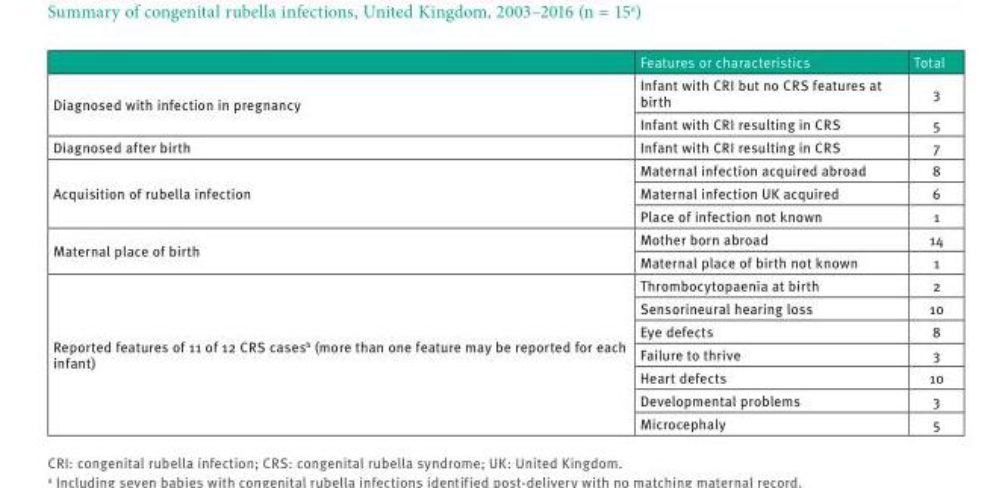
<table><thead><tr><td></td><td>Features or characteristics</td><td>Total</td></tr></thead><tbody><tr><td rowspan="2">Diagnosed with infection in pregnancy</td><td>Infant with CRI but no CRS features at birth</td><td>3</td></tr><tr><td>Infant with CRI resulting in CRS</td><td>5</td></tr><tr><td>Diagnosed after birth</td><td>Infant with CRI resulting in CRS</td><td>7</td></tr><tr><td rowspan="3">Acquisition of rubella infection</td><td>Maternal infection acquired abroad</td><td>8</td></tr><tr><td>Maternal infection UK acquired</td><td>6</td></tr><tr><td>Place of infection not known</td><td>1</td></tr><tr><td rowspan="2">Maternal place of birth</td><td>Mother born abroad</td><td>14</td></tr><tr><td>Maternal place of birth not known</td><td>1</td></tr><tr><td rowspan="7">Reported features of 11 of 12 CRS cases<sup>b</sup> (more than one feature may be reported for each infant)</td><td>Thrombocytopaenia at birth</td><td>2</td></tr><tr><td>Sensorineural hearing loss</td><td>10</td></tr><tr><td>Eye defects</td><td>8</td></tr><tr><td>Failure to thrive</td><td>3</td></tr><tr><td>Heart defects</td><td>10</td></tr><tr><td>Developmental problems</td><td>3</td></tr><tr><td>Microcephaly</td><td>5</td></tr></tbody></table>